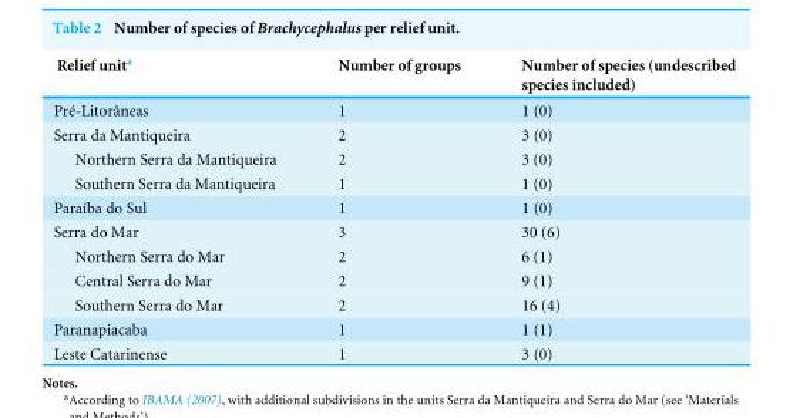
<table><thead><tr><td>Relief unit<sup>a</sup></td><td>Number of groups</td><td>Number of species (undescribed species included)</td></tr></thead><tbody><tr><td>Pré-Litorâneas</td><td>1</td><td>1 (0)</td></tr><tr><td>Serra da Mantiqueira</td><td>2</td><td>3 (0)</td></tr><tr><td>Northern Serra da Mantiqueira</td><td>2</td><td>3 (0)</td></tr><tr><td>Southern Serra da Mantiqueira</td><td>1</td><td>1 (0)</td></tr><tr><td>Paraíba do Sul</td><td>1</td><td>1 (0)</td></tr><tr><td>Serra do Mar</td><td>3</td><td>30 (6)</td></tr><tr><td>Northern Serra do Mar</td><td>2</td><td>6 (1)</td></tr><tr><td>Central Serra do Mar</td><td>2</td><td>9 (1)</td></tr><tr><td>Southern Serra do Mar</td><td>2</td><td>16 (4)</td></tr><tr><td>Paranapiacaba</td><td>1</td><td>1 (1)</td></tr><tr><td>Leste Catarinense</td><td>1</td><td>3 (0)</td></tr></tbody></table>